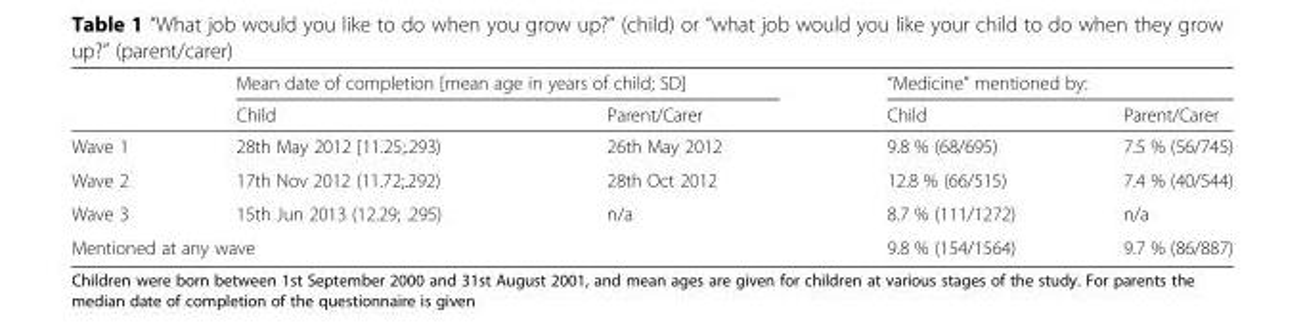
<table><thead><tr><td rowspan="2"></td><td colspan="2">Mean date of completion [mean age in years of child; SD]</td><td colspan="2">“Medicine” mentioned by:</td></tr><tr><td>Child</td><td>Parent/Carer</td><td>Child</td><td>Parent/Carer</td></tr></thead><tbody><tr><td>Wave 1</td><td>28th May 2012 [11.25;.293)</td><td>26th May 2012</td><td>9.8 % (68/695)</td><td>7.5 % (56/745)</td></tr><tr><td>Wave 2</td><td>17th Nov 2012 (11.72;.292)</td><td>28th Oct 2012</td><td>12.8 % (66/515)</td><td>7.4 % (40/544)</td></tr><tr><td>Wave 3</td><td>15th Jun 2013 (12.29; .295)</td><td>n/a</td><td>8.7 % (111/1272)</td><td>n/a</td></tr><tr><td colspan="3">Mentioned at any wave</td><td>9.8 % (154/1564)</td><td>9.7 % (86/887)</td></tr></tbody></table>